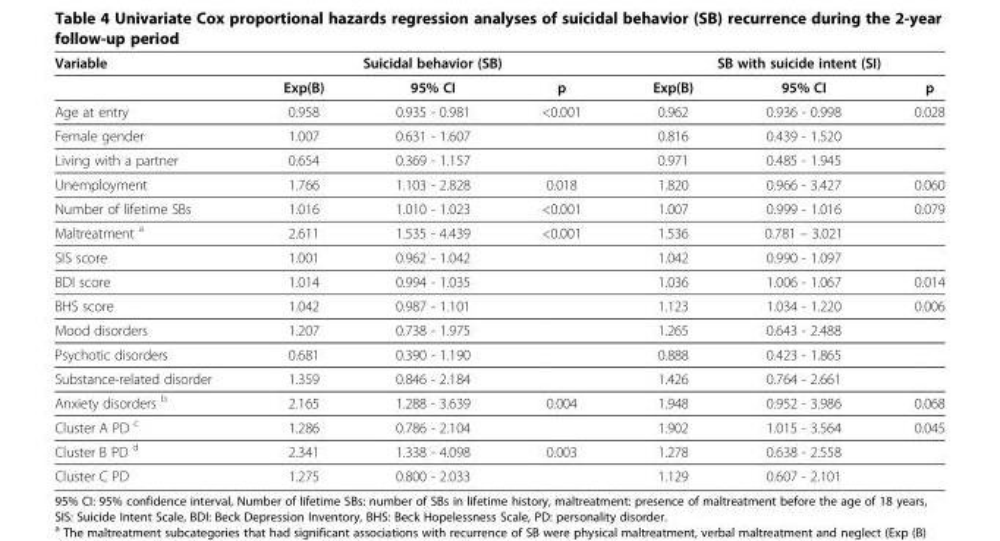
<table><thead><tr><td rowspan="2">Variable</td><td colspan="3">Suicidal behavior (SB)</td><td colspan="3">SB with suicide intent (SI)</td></tr><tr><td>Exp(B)</td><td>95% CI</td><td>p</td><td>Exp(B)</td><td>95% CI</td><td>p</td></tr></thead><tbody><tr><td>Age at entry</td><td>0.958</td><td>0.935 - 0.981</td><td>&lt;0.001</td><td>0.962</td><td>0.936 - 0.998</td><td>0.028</td></tr><tr><td>Female gender</td><td>1.007</td><td>0.631 - 1.607</td><td></td><td>0.816</td><td>0.439 - 1.520</td><td></td></tr><tr><td>Living with a partner</td><td>0.654</td><td>0.369 - 1.157</td><td></td><td>0.971</td><td>0.485 - 1.945</td><td></td></tr><tr><td>Unemployment</td><td>1.766</td><td>1.103 - 2.828</td><td>0.018</td><td>1.820</td><td>0.966 - 3.427</td><td>0.060</td></tr><tr><td>Number of lifetime SBs</td><td>1.016</td><td>1.010 - 1.023</td><td>&lt;0.001</td><td>1.007</td><td>0.999 - 1.016</td><td>0.079</td></tr><tr><td>Maltreatment <sup>a</sup></td><td>2.611</td><td>1.535 - 4.439</td><td>&lt;0.001</td><td>1.536</td><td>0.781 – 3.021</td><td></td></tr><tr><td>SIS score</td><td>1.001</td><td>0.962 - 1.042</td><td></td><td>1.042</td><td>0.990 - 1.097</td><td></td></tr><tr><td>BDI score</td><td>1.014</td><td>0.994 - 1.035</td><td></td><td>1.036</td><td>1.006 - 1.067</td><td>0.014</td></tr><tr><td>BHS score</td><td>1.042</td><td>0.987 - 1.101</td><td></td><td>1.123</td><td>1.034 - 1.220</td><td>0.006</td></tr><tr><td>Mood disorders</td><td>1.207</td><td>0.738 - 1.975</td><td></td><td>1.265</td><td>0.643 - 2.488</td><td></td></tr><tr><td>Psychotic disorders</td><td>0.681</td><td>0.390 - 1.190</td><td></td><td>0.888</td><td>0.423 - 1.865</td><td></td></tr><tr><td>Substance-related disorder</td><td>1.359</td><td>0.846 - 2.184</td><td></td><td>1.426</td><td>0.764 - 2.661</td><td></td></tr><tr><td>Anxiety disorders <sup>b</sup></td><td>2.165</td><td>1.288 - 3.639</td><td>0.004</td><td>1.948</td><td>0.952 - 3.986</td><td>0.068</td></tr><tr><td>Cluster A PD <sup>c</sup></td><td>1.286</td><td>0.786 - 2.104</td><td></td><td>1.902</td><td>1.015 - 3.564</td><td>0.045</td></tr><tr><td>Cluster B PD <sup>d</sup></td><td>2.341</td><td>1.338 - 4.098</td><td>0.003</td><td>1.278</td><td>0.638 - 2.558</td><td></td></tr><tr><td>Cluster C PD</td><td>1.275</td><td>0.800 - 2.033</td><td></td><td>1.129</td><td>0.607 - 2.101</td><td></td></tr></tbody></table>